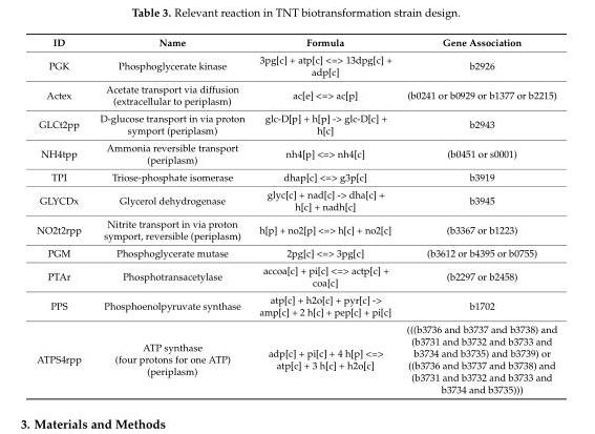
<table><thead><tr><td>ID</td><td>Name</td><td>Formula</td><td>Gene Association</td></tr></thead><tbody><tr><td>PGK</td><td>Phosphoglycerate kinase</td><td>3pg[c] + atp[c] &lt;=&gt; 13dpg[c] + adp[c]</td><td>b2926</td></tr><tr><td>Actex</td><td>Acetate transport via diffusion (extracellular to periplasm)</td><td>ac[e] &lt;=&gt; ac[p]</td><td>(b0241 or b0929 or b1377 or b2215)</td></tr><tr><td>GLCt2pp</td><td>D-glucose transport in via proton symport (periplasm)</td><td>glc-D[p] + h[p] -&gt; glc-D[c] + h[c]</td><td>b2943</td></tr><tr><td>NH4tpp</td><td>Ammonia reversible transport (periplasm)</td><td>nh4[p] &lt;=&gt; nh4[c]</td><td>(b0451 or s0001)</td></tr><tr><td>TPI</td><td>Triose-phosphate isomerase</td><td>dhap[c] &lt;=&gt; g3p[c]</td><td>b3919</td></tr><tr><td>GLYCDx</td><td>Glycerol dehydrogenase</td><td>glyc[c] + nad[c] -&gt; dha[c] + h[c] + nadh[c]</td><td>b3945</td></tr><tr><td>NO2t2rpp</td><td>Nitrite transport in via proton symport, reversible (periplasm)</td><td>h[p] + no2[p] &lt;=&gt; h[c] + no2[c]</td><td>(b3367 or b1223)</td></tr><tr><td>PGM</td><td>Phosphoglycerate mutase</td><td>2pg[c] &lt;=&gt; 3pg[c]</td><td>(b3612 or b4395 or b0755)</td></tr><tr><td>PTAr</td><td>Phosphotransacetylase</td><td>accoa[c] + pi[c] &lt;=&gt; actp[c] + coa[c]</td><td>(b2297 or b2458)</td></tr><tr><td>PPS</td><td>Phosphoenolpyruvate synthase</td><td>atp[c] + h2o[c] + pyr[c] -&gt; amp[c] + 2 h[c] + pep[c] + pi[c]</td><td>b1702</td></tr><tr><td>ATPS4rpp</td><td>ATP synthase (four protons for one ATP) (periplasm)</td><td>adp[c] + pi[c] + 4 h[p] &lt;=&gt; atp[c] + 3 h[c] + h2o[c]</td><td>(((b3736 and b3737 and b3738) and (b3731 and b3732 and b3733 and b3734 and b3735) and b3739) or ((b3736 and b3737 and b3738) and (b3731 and b3732 and b3733 and b3734 and b3735)))</td></tr></tbody></table>